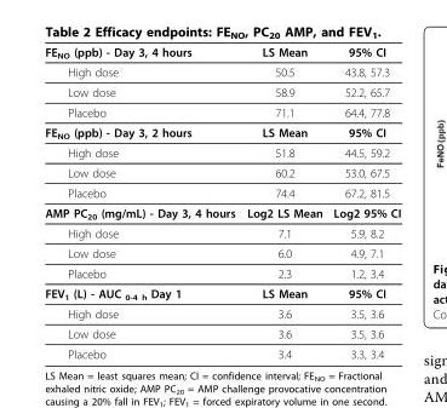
<table><thead><tr><td>FE<sub>NO</sub> (ppb) - Day 3, 4 hours</td><td>LS Mean</td><td>95% CI</td></tr></thead><tbody><tr><td>High dose</td><td>50.5</td><td>43.8, 57.3</td></tr><tr><td>Low dose</td><td>58.9</td><td>52.2, 65.7</td></tr><tr><td>Placebo</td><td>71.1</td><td>64.4, 77.8</td></tr><tr><td>FE<sub>NO</sub> (ppb) - Day 3, 2 hours</td><td>LS Mean</td><td>95% CI</td></tr><tr><td>High dose</td><td>51.8</td><td>44.5, 59.2</td></tr><tr><td>Low dose</td><td>60.2</td><td>53.0, 67.5</td></tr><tr><td>Placebo</td><td>74.4</td><td>67.2, 81.5</td></tr><tr><td>AMP PC<sub>20</sub> (mg/mL) - Day 3, 4 hours</td><td>Log2 LS Mean</td><td>Log2 95% CI</td></tr><tr><td>High dose</td><td>7.1</td><td>5.9, 8.2</td></tr><tr><td>Low dose</td><td>6.0</td><td>4.9, 7.1</td></tr><tr><td>Placebo</td><td>2.3</td><td>1.2, 3.4</td></tr><tr><td>FEV<sub>1</sub> (L) - AUC <sub>0-4 h</sub> Day 1</td><td>LS Mean</td><td>95% CI</td></tr><tr><td>High dose</td><td>3.6</td><td>3.5, 3.6</td></tr><tr><td>Low dose</td><td>3.6</td><td>3.5, 3.6</td></tr><tr><td>Placebo</td><td>3.4</td><td>3.3, 3.4</td></tr></tbody></table>